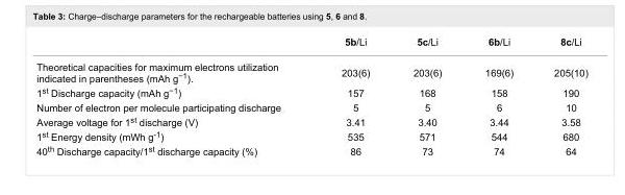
<table><thead><tr><td></td><td>5b/Li</td><td>5c/Li</td><td>6b/Li</td><td>8c/Li</td></tr></thead><tbody><tr><td>Theoretical capacities for maximum electrons utilization indicated in parentheses (mAh g<sup>−1</sup>).</td><td>203(6)</td><td>203(6)</td><td>169(6)</td><td>205(10)</td></tr><tr><td>1<sup>st</sup> Discharge capacity (mAh g<sup>−1</sup>)</td><td>157</td><td>168</td><td>158</td><td>190</td></tr><tr><td>Number of electron per molecule participating discharge</td><td>5</td><td>5</td><td>6</td><td>10</td></tr><tr><td>Average voltage for 1<sup>st</sup> discharge (V)</td><td>3.41</td><td>3.40</td><td>3.44</td><td>3.58</td></tr><tr><td>1<sup>st</sup> Energy density (mWh g<sup>-1</sup>)</td><td>535</td><td>571</td><td>544</td><td>680</td></tr><tr><td>40<sup>th</sup> Discharge capacity/1<sup>st</sup> discharge capacity (%)</td><td>86</td><td>73</td><td>74</td><td>64</td></tr></tbody></table>